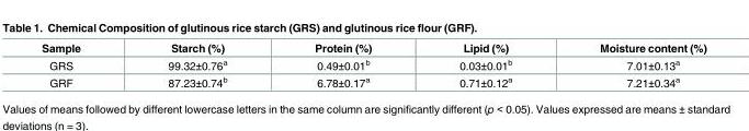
<table><thead><tr><td>Sample</td><td>Starch (%)</td><td>Protein (%)</td><td>Lipid (%)</td><td>Moisture content (%)</td></tr></thead><tbody><tr><td>GRS</td><td>99.32±0.76<sup>a</sup></td><td>0.49±0.01<sup>b</sup></td><td>0.03±0.01<sup>b</sup></td><td>7.01±0.13<sup>a</sup></td></tr><tr><td>GRF</td><td>87.23±0.74<sup>b</sup></td><td>6.78±0.17<sup>a</sup></td><td>0.71±0.12<sup>a</sup></td><td>7.21±0.34<sup>a</sup></td></tr></tbody></table>